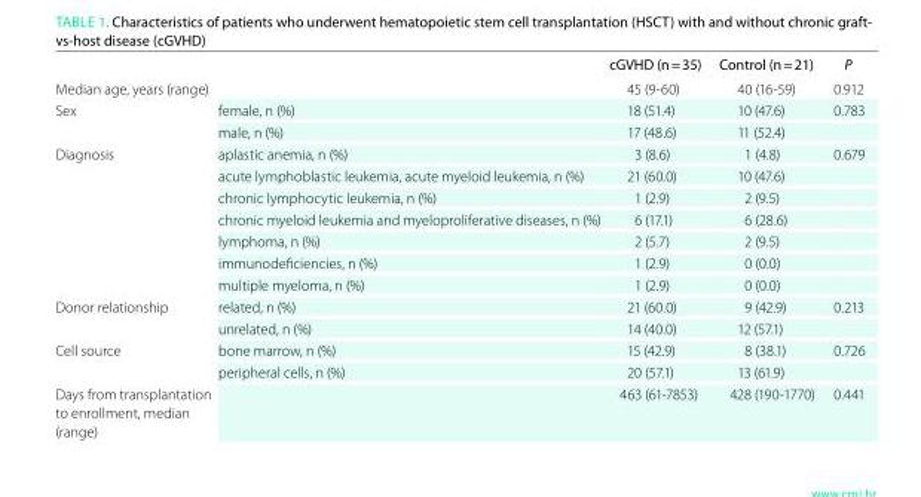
<table><thead><tr><td></td><td></td><td>cGVhD (n = 35)</td><td>Control (n = 21)</td><td>P</td></tr></thead><tbody><tr><td colspan="2">Median age, years (range)</td><td>45 (9-60)</td><td>40 (16-59)</td><td>0.912</td></tr><tr><td rowspan="2">Sex</td><td>female, n (%)</td><td>18 (51.4)</td><td>10 (47.6)</td><td rowspan="2">0.783</td></tr><tr><td>male, n (%)</td><td>17 (48.6)</td><td>11 (52.4)</td></tr><tr><td rowspan="7">Diagnosis</td><td>aplastic anemia, n (%)</td><td>3 (8.6)</td><td>1 (4.8)</td><td rowspan="7">0.679</td></tr><tr><td>acute lymphoblastic leukemia, acute myeloid leukemia, n (%)</td><td>21 (60.0)</td><td>10 (47.6)</td></tr><tr><td>chronic lymphocytic leukemia, n (%)</td><td>1 (2.9)</td><td>2 (9.5)</td></tr><tr><td>chronic myeloid leukemia and myeloproliferative diseases, n (%)</td><td>6 (17.1)</td><td>6 (28.6)</td></tr><tr><td>lymphoma, n (%)</td><td>2 (5.7)</td><td>2 (9.5)</td></tr><tr><td>immunodeficiencies, n (%)</td><td>1 (2.9)</td><td>0 (0.0)</td></tr><tr><td>multiple myeloma, n (%)</td><td>1 (2.9)</td><td>0 (0.0)</td></tr><tr><td rowspan="2">Donor relationship</td><td>related, n (%)</td><td>21 (60.0)</td><td>9 (42.9)</td><td rowspan="2">0.213</td></tr><tr><td>unrelated, n (%)</td><td>14 (40.0)</td><td>12 (57.1)</td></tr><tr><td rowspan="2">Cell source</td><td>bone marrow, n (%)</td><td>15 (42.9)</td><td>8 (38.1)</td><td rowspan="2">0.726</td></tr><tr><td>peripheral cells, n (%)</td><td>20 (57.1)</td><td>13 (61.9)</td></tr><tr><td colspan="2">Days from transplantation to enrollment, median (range)</td><td>463 (61-7853)</td><td>428 (190-1770)</td><td>0.441</td></tr></tbody></table>